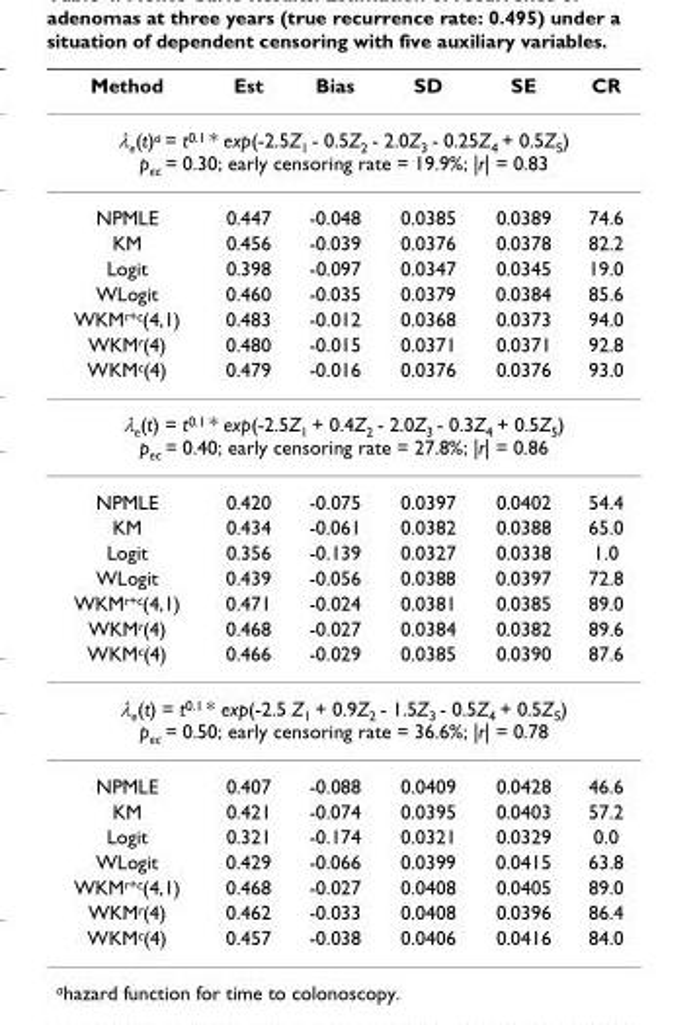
<table><thead><tr><td>Method</td><td>Est</td><td>Bias</td><td>SD</td><td>SE</td><td>CR</td></tr></thead><tbody><tr><td colspan="6">λ<sub>e</sub>(t)<sup>a</sup> = t<sup>0.1</sup> * exp(-2.5Z<sub>1</sub> - 0.5Z<sub>2</sub> - 2.0Z<sub>3</sub> - 0.25Z<sub>4</sub> + 0.5Z<sub>5</sub>) p<sub>ec</sub> = 0.30; early censoring rate = 19.9%; |r| = 0.83</td></tr><tr><td>NPMLE</td><td>0.447</td><td>-0.048</td><td>0.0385</td><td>0.0389</td><td>74.6</td></tr><tr><td>KM</td><td>0.456</td><td>-0.039</td><td>0.0376</td><td>0.0378</td><td>82.2</td></tr><tr><td>Logit</td><td>0.398</td><td>-0.097</td><td>0.0347</td><td>0.0345</td><td>19.0</td></tr><tr><td>WLogit</td><td>0.460</td><td>-0.035</td><td>0.0379</td><td>0.0384</td><td>85.6</td></tr><tr><td>WKM<sup>r+c</sup>(4,1)</td><td>0.483</td><td>-0.012</td><td>0.0368</td><td>0.0373</td><td>94.0</td></tr><tr><td>WKM<sup>r</sup>(4)</td><td>0.480</td><td>-0.015</td><td>0.0371</td><td>0.0371</td><td>92.8</td></tr><tr><td>WKM<sup>c</sup>(4)</td><td>0.479</td><td>-0.016</td><td>0.0376</td><td>0.0376</td><td>93.0</td></tr><tr><td colspan="6">λ<sub>e</sub>(t) = t<sup>0.1</sup> * exp(-2.5Z<sub>1</sub> + 0.4Z<sub>2</sub> - 2.0Z<sub>3</sub> - 0.3Z<sub>4</sub> + 0.5Z<sub>5</sub>) p<sub>ec</sub> = 0.40; early censoring rate = 27.8%; |r| = 0.86</td></tr><tr><td>NPMLE</td><td>0.420</td><td>-0.075</td><td>0.0397</td><td>0.0402</td><td>54.4</td></tr><tr><td>KM</td><td>0.434</td><td>-0.061</td><td>0.0382</td><td>0.0388</td><td>65.0</td></tr><tr><td>Logit</td><td>0.356</td><td>-0.139</td><td>0.0327</td><td>0.0338</td><td>1.0</td></tr><tr><td>WLogit</td><td>0.439</td><td>-0.056</td><td>0.0388</td><td>0.0397</td><td>72.8</td></tr><tr><td>WKM<sup>r+c</sup>(4,1)</td><td>0.471</td><td>-0.024</td><td>0.0381</td><td>0.0385</td><td>89.0</td></tr><tr><td>WKM<sup>r</sup>(4)</td><td>0.468</td><td>-0.027</td><td>0.0384</td><td>0.0382</td><td>89.6</td></tr><tr><td>WKM<sup>c</sup>(4)</td><td>0.466</td><td>-0.029</td><td>0.0385</td><td>0.0390</td><td>87.6</td></tr><tr><td colspan="6">λ<sub>e</sub>(t) = t<sup>0.1</sup> * exp(-2.5 Z<sub>1</sub> + 0.9Z<sub>2</sub> - 1.5Z<sub>3</sub> - 0.5Z<sub>4</sub> + 0.5Z<sub>5</sub>) p<sub>ec</sub> = 0.50; early censoring rate = 36.6%; |r| = 0.78</td></tr><tr><td>NPMLE</td><td>0.407</td><td>-0.088</td><td>0.0409</td><td>0.0428</td><td>46.6</td></tr><tr><td>KM</td><td>0.421</td><td>-0.074</td><td>0.0395</td><td>0.0403</td><td>57.2</td></tr><tr><td>Logit</td><td>0.321</td><td>-0.174</td><td>0.0321</td><td>0.0329</td><td>0.0</td></tr><tr><td>WLogit</td><td>0.429</td><td>-0.066</td><td>0.0399</td><td>0.0415</td><td>63.8</td></tr><tr><td>WKM<sup>r+c</sup>(4,1)</td><td>0.468</td><td>-0.027</td><td>0.0408</td><td>0.0405</td><td>89.0</td></tr><tr><td>WKM<sup>r</sup>(4)</td><td>0.462</td><td>-0.033</td><td>0.0408</td><td>0.0396</td><td>86.4</td></tr><tr><td>WKM<sup>c</sup>(4)</td><td>0.457</td><td>-0.038</td><td>0.0406</td><td>0.0416</td><td>84.0</td></tr></tbody></table>